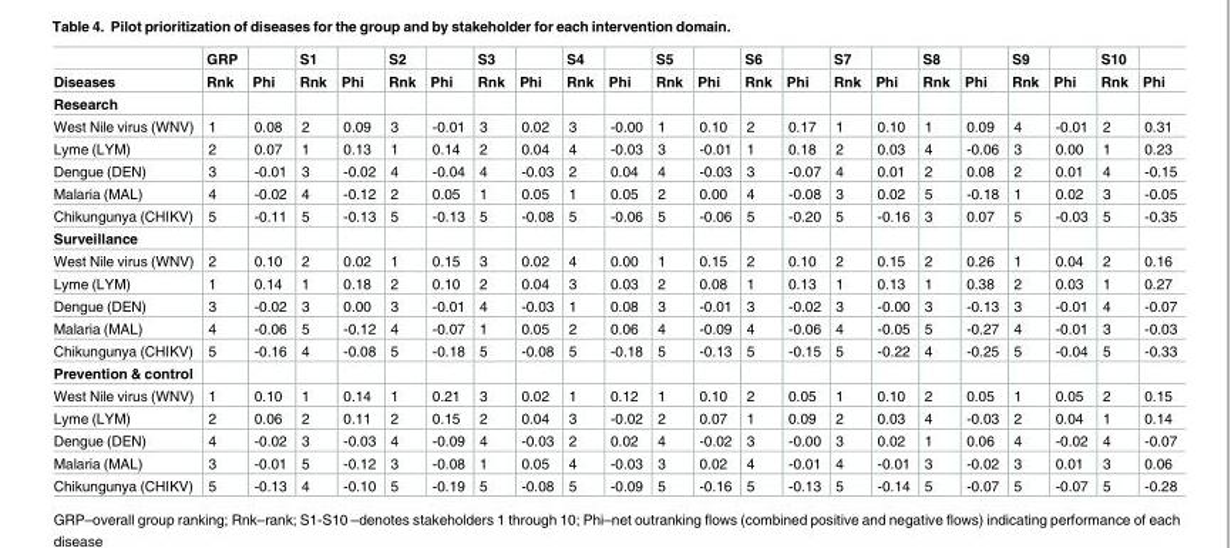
<table><thead><tr><td rowspan="2">Diseases</td><td rowspan="2">GRP Rnk</td><td rowspan="2">Phi</td><td rowspan="2">S1 Rnk</td><td rowspan="2">Phi</td><td rowspan="2">S2 Rnk</td><td rowspan="2">Phi</td><td rowspan="2">S3 Rnk</td><td rowspan="2">Phi</td><td rowspan="2">S4 Rnk</td><td rowspan="2">Phi</td><td rowspan="2">S5 Rnk</td><td rowspan="2">Phi</td><td rowspan="2">S6 Rnk</td><td rowspan="2">Phi</td><td rowspan="2">S7 Rnk</td><td rowspan="2">Phi</td><td rowspan="2">S8 Rnk</td><td rowspan="2">Phi</td><td rowspan="2">S9 Rnk</td><td rowspan="2">Phi</td><td rowspan="2">S10 Rnk</td><td rowspan="2">Phi</td></tr><tr></tr></thead><tbody><tr><td colspan="23">Research</td></tr><tr><td>West Nile virus (WNV)</td><td>1</td><td>0.08</td><td>2</td><td>0.09</td><td>3</td><td>-0.01</td><td>3</td><td>0.02</td><td>3</td><td>-0.00</td><td>1</td><td>0.10</td><td>2</td><td>0.17</td><td>1</td><td>0.10</td><td>1</td><td>0.09</td><td>4</td><td>-0.01</td><td>2</td><td>0.31</td></tr><tr><td>Lyme (LYM)</td><td>2</td><td>0.07</td><td>1</td><td>0.13</td><td>1</td><td>0.14</td><td>2</td><td>0.04</td><td>4</td><td>-0.03</td><td>3</td><td>-0.01</td><td>1</td><td>0.18</td><td>2</td><td>0.03</td><td>4</td><td>-0.06</td><td>3</td><td>0.00</td><td>1</td><td>0.23</td></tr><tr><td>Dengue (DEN)</td><td>3</td><td>-0.01</td><td>3</td><td>-0.02</td><td>4</td><td>-0.04</td><td>4</td><td>-0.03</td><td>2</td><td>0.04</td><td>4</td><td>-0.03</td><td>3</td><td>-0.07</td><td>4</td><td>0.01</td><td>2</td><td>0.08</td><td>2</td><td>0.01</td><td>4</td><td>-0.15</td></tr><tr><td>Malaria (MAL)</td><td>4</td><td>-0.02</td><td>4</td><td>-0.12</td><td>2</td><td>0.05</td><td>1</td><td>0.05</td><td>1</td><td>0.05</td><td>2</td><td>0.00</td><td>4</td><td>-0.08</td><td>3</td><td>0.02</td><td>5</td><td>-0.18</td><td>1</td><td>0.02</td><td>3</td><td>-0.05</td></tr><tr><td>Chikungunya (CHIKV)</td><td>5</td><td>-0.11</td><td>5</td><td>-0.13</td><td>5</td><td>-0.13</td><td>5</td><td>-0.08</td><td>5</td><td>-0.06</td><td>5</td><td>-0.06</td><td>5</td><td>-0.20</td><td>5</td><td>-0.16</td><td>3</td><td>0.07</td><td>5</td><td>-0.03</td><td>5</td><td>-0.35</td></tr><tr><td colspan="23">Surveillance</td></tr><tr><td>West Nile virus (WNV)</td><td>2</td><td>0.10</td><td>2</td><td>0.02</td><td>1</td><td>0.15</td><td>3</td><td>0.02</td><td>4</td><td>0.00</td><td>1</td><td>0.15</td><td>2</td><td>0.10</td><td>2</td><td>0.15</td><td>2</td><td>0.26</td><td>1</td><td>0.04</td><td>2</td><td>0.16</td></tr><tr><td>Lyme (LYM)</td><td>1</td><td>0.14</td><td>1</td><td>0.18</td><td>2</td><td>0.10</td><td>2</td><td>0.04</td><td>3</td><td>0.03</td><td>2</td><td>0.08</td><td>1</td><td>0.13</td><td>1</td><td>0.13</td><td>1</td><td>0.38</td><td>2</td><td>0.03</td><td>1</td><td>0.27</td></tr><tr><td>Dengue (DEN)</td><td>3</td><td>-0.02</td><td>3</td><td>0.00</td><td>3</td><td>-0.01</td><td>4</td><td>-0.03</td><td>1</td><td>0.08</td><td>3</td><td>-0.01</td><td>3</td><td>-0.02</td><td>3</td><td>-0.00</td><td>3</td><td>-0.13</td><td>3</td><td>-0.01</td><td>4</td><td>-0.07</td></tr><tr><td>Malaria (MAL)</td><td>4</td><td>-0.06</td><td>5</td><td>-0.12</td><td>4</td><td>-0.07</td><td>1</td><td>0.05</td><td>2</td><td>0.06</td><td>4</td><td>-0.09</td><td>4</td><td>-0.06</td><td>4</td><td>-0.05</td><td>5</td><td>-0.27</td><td>4</td><td>-0.01</td><td>3</td><td>-0.03</td></tr><tr><td>Chikungunya (CHIKV)</td><td>5</td><td>-0.16</td><td>4</td><td>-0.08</td><td>5</td><td>-0.18</td><td>5</td><td>-0.08</td><td>5</td><td>-0.18</td><td>5</td><td>-0.13</td><td>5</td><td>-0.15</td><td>5</td><td>-0.22</td><td>4</td><td>-0.25</td><td>5</td><td>-0.04</td><td>5</td><td>-0.33</td></tr><tr><td colspan="23">Prevention &amp; control</td></tr><tr><td>West Nile virus (WNV)</td><td>1</td><td>0.10</td><td>1</td><td>0.14</td><td>1</td><td>0.21</td><td>3</td><td>0.02</td><td>1</td><td>0.12</td><td>1</td><td>0.10</td><td>2</td><td>0.05</td><td>1</td><td>0.10</td><td>2</td><td>0.05</td><td>1</td><td>0.05</td><td>2</td><td>0.15</td></tr><tr><td>Lyme (LYM)</td><td>2</td><td>0.06</td><td>2</td><td>0.11</td><td>2</td><td>0.15</td><td>2</td><td>0.04</td><td>3</td><td>-0.02</td><td>2</td><td>0.07</td><td>1</td><td>0.09</td><td>2</td><td>0.03</td><td>4</td><td>-0.03</td><td>2</td><td>0.04</td><td>1</td><td>0.14</td></tr><tr><td>Dengue (DEN)</td><td>4</td><td>-0.02</td><td>3</td><td>-0.03</td><td>4</td><td>-0.09</td><td>4</td><td>-0.03</td><td>2</td><td>0.02</td><td>4</td><td>-0.02</td><td>3</td><td>-0.00</td><td>3</td><td>0.02</td><td>1</td><td>0.06</td><td>4</td><td>-0.02</td><td>4</td><td>-0.07</td></tr><tr><td>Malaria (MAL)</td><td>3</td><td>-0.01</td><td>5</td><td>-0.12</td><td>3</td><td>-0.08</td><td>1</td><td>0.05</td><td>4</td><td>-0.03</td><td>3</td><td>0.02</td><td>4</td><td>-0.01</td><td>4</td><td>-0.01</td><td>3</td><td>-0.02</td><td>3</td><td>0.01</td><td>3</td><td>0.06</td></tr><tr><td>Chikungunya (CHIKV)</td><td>5</td><td>-0.13</td><td>4</td><td>-0.10</td><td>5</td><td>-0.19</td><td>5</td><td>-0.08</td><td>5</td><td>-0.09</td><td>5</td><td>-0.16</td><td>5</td><td>-0.13</td><td>5</td><td>-0.14</td><td>5</td><td>-0.07</td><td>5</td><td>-0.07</td><td>5</td><td>-0.28</td></tr></tbody></table>